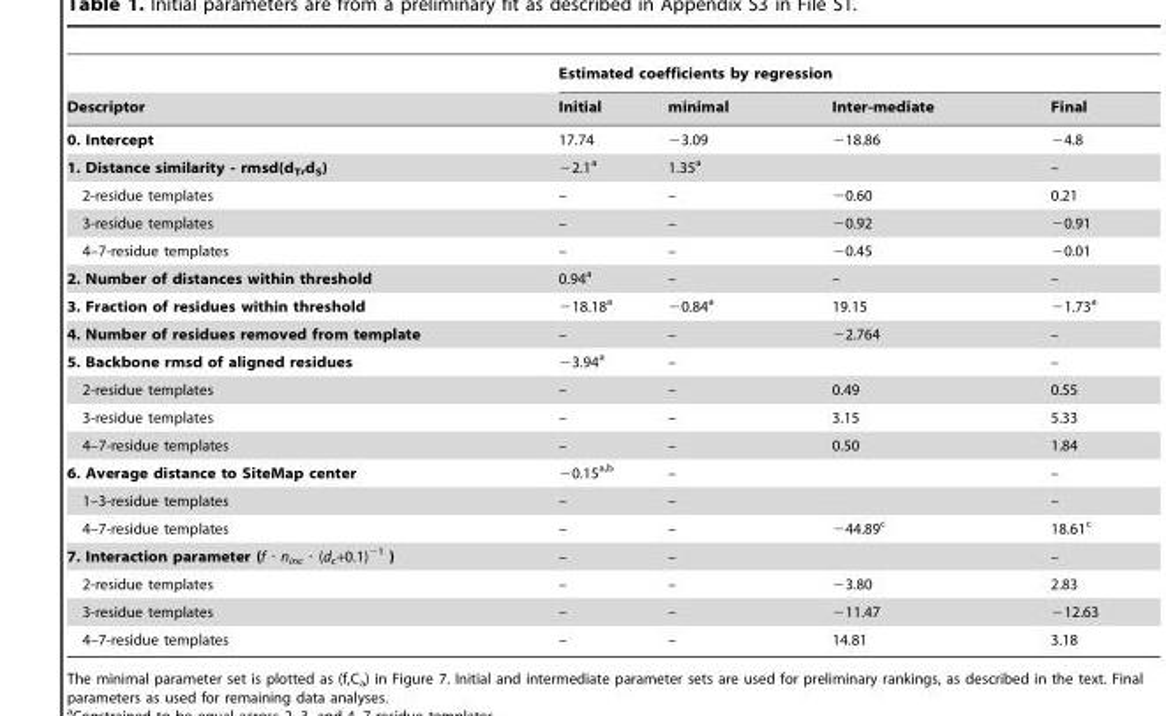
<table><thead><tr><td rowspan="2">Descriptor</td><td colspan="4">Estimated coefficients by regression</td></tr><tr><td>Initial</td><td>minimal</td><td>Inter-mediate</td><td>Final</td></tr></thead><tbody><tr><td>0. Intercept</td><td>17.74</td><td>−3.09</td><td>−18.86</td><td>−4.8</td></tr><tr><td>1. Distance similarity - rmsd(d<sub>T</sub>,d<sub>S</sub>)</td><td>−2.1<sup>a</sup></td><td>1.35<sup>a</sup></td><td></td><td>–</td></tr><tr><td>2-residue templates</td><td>–</td><td>–</td><td>−0.60</td><td>0.21</td></tr><tr><td>3-residue templates</td><td>–</td><td>–</td><td>−0.92</td><td>−0.91</td></tr><tr><td>4–7-residue templates</td><td>–</td><td>–</td><td>−0.45</td><td>−0.01</td></tr><tr><td>2. Number of distances within threshold</td><td>0.94<sup>a</sup></td><td>–</td><td>–</td><td>–</td></tr><tr><td>3. Fraction of residues within threshold</td><td>−18.18<sup>a</sup></td><td>−0.84<sup>a</sup></td><td>19.15</td><td>−1.73<sup>a</sup></td></tr><tr><td>4. Number of residues removed from template</td><td>–</td><td>–</td><td>−2.764</td><td>–</td></tr><tr><td>5. Backbone rmsd of aligned residues</td><td>−3.94<sup>a</sup></td><td>–</td><td></td><td>–</td></tr><tr><td>2-residue templates</td><td>–</td><td>–</td><td>0.49</td><td>0.55</td></tr><tr><td>3-residue templates</td><td>–</td><td>–</td><td>3.15</td><td>5.33</td></tr><tr><td>4–7-residue templates</td><td>–</td><td>–</td><td>0.50</td><td>1.84</td></tr><tr><td>6. Average distance to SiteMap center</td><td>−0.15a,b</td><td>–</td><td></td><td>–</td></tr><tr><td>1–3-residue templates</td><td>–</td><td>–</td><td></td><td>–</td></tr><tr><td>4–7-residue templates</td><td>–</td><td>–</td><td>−44.89<sup>c</sup></td><td>18.61<sup>c</sup></td></tr><tr><td>7. Interaction parameter (f ⋅ n<sub>inc</sub> ⋅ (d<sub>c</sub>+0.1)<sup>−1</sup> )</td><td>–</td><td>–</td><td></td><td>–</td></tr><tr><td>2-residue templates</td><td>–</td><td>–</td><td>−3.80</td><td>2.83</td></tr><tr><td>3-residue templates</td><td>–</td><td>–</td><td>−11.47</td><td>−12.63</td></tr><tr><td>4–7-residue templates</td><td>–</td><td>–</td><td>14.81</td><td>3.18</td></tr></tbody></table>